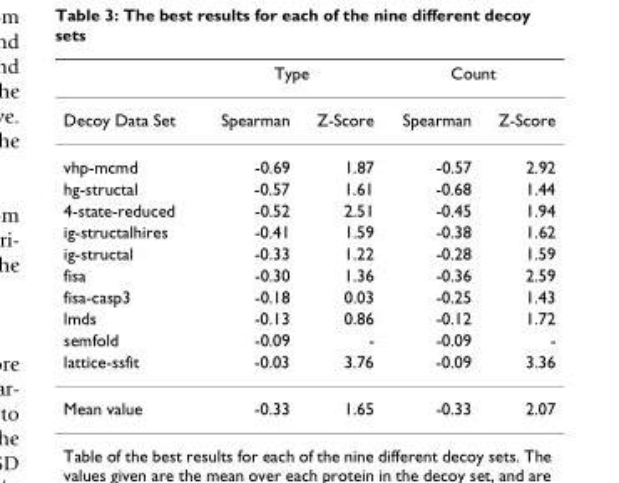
<table><thead><tr><td rowspan="2">Decoy Data Set</td><td colspan="2">Type</td><td colspan="2">Count</td></tr><tr><td>Spearman</td><td>Z-Score</td><td>Spearman</td><td>Z-Score</td></tr></thead><tbody><tr><td>vhp-mcmd</td><td>-0.69</td><td>1.87</td><td>-0.57</td><td>2.92</td></tr><tr><td>hg-structal</td><td>-0.57</td><td>1.61</td><td>-0.68</td><td>1.44</td></tr><tr><td>4-state-reduced</td><td>-0.52</td><td>2.51</td><td>-0.45</td><td>1.94</td></tr><tr><td>ig-structalhires</td><td>-0.41</td><td>1.59</td><td>-0.38</td><td>1.62</td></tr><tr><td>ig-structal</td><td>-0.33</td><td>1.22</td><td>-0.28</td><td>1.59</td></tr><tr><td>fisa</td><td>-0.30</td><td>1.36</td><td>-0.36</td><td>2.59</td></tr><tr><td>fisa-casp3</td><td>-0.18</td><td>0.03</td><td>-0.25</td><td>1.43</td></tr><tr><td>lmds</td><td>-0.13</td><td>0.86</td><td>-0.12</td><td>1.72</td></tr><tr><td>semfold</td><td>-0.09</td><td>-</td><td>-0.09</td><td>-</td></tr><tr><td>lattice-ssfit</td><td>-0.03</td><td>3.76</td><td>-0.09</td><td>3.36</td></tr><tr><td>Mean value</td><td>-0.33</td><td>1.65</td><td>-0.33</td><td>2.07</td></tr></tbody></table>